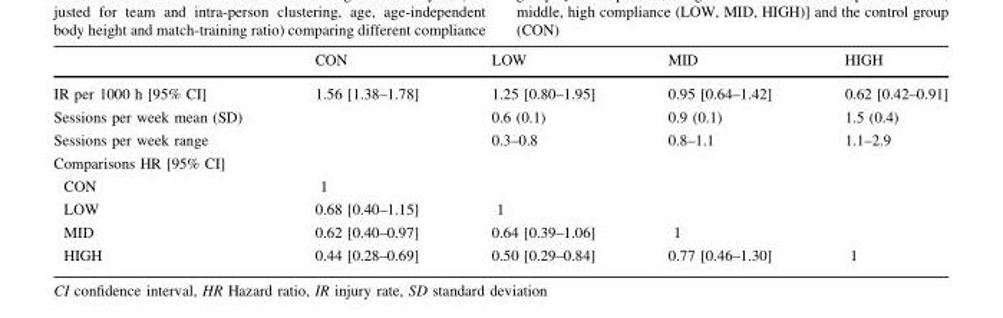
<table><thead><tr><td></td><td>CON</td><td>LOW</td><td>MID</td><td>HIGH</td></tr></thead><tbody><tr><td>IR per 1000 h [95% CI]</td><td>1.56 [1.38–1.78]</td><td>1.25 [0.80–1.95]</td><td>0.95 [0.64–1.42]</td><td>0.62 [0.42–0.91]</td></tr><tr><td>Sessions per week mean (SD)</td><td></td><td>0.6 (0.1)</td><td>0.9 (0.1)</td><td>1.5 (0.4)</td></tr><tr><td>Sessions per week range</td><td></td><td>0.3–0.8</td><td>0.8–1.1</td><td>1.1–2.9</td></tr><tr><td colspan="5">Comparisons HR [95% CI]</td></tr><tr><td>CON</td><td>1</td><td></td><td></td><td></td></tr><tr><td>LOW</td><td>0.68 [0.40–1.15]</td><td>1</td><td></td><td></td></tr><tr><td>MID</td><td>0.62 [0.40–0.97]</td><td>0.64 [0.39–1.06]</td><td>1</td><td></td></tr><tr><td>HIGH</td><td>0.44 [0.28–0.69]</td><td>0.50 [0.29–0.84]</td><td>0.77 [0.46–1.30]</td><td>1</td></tr></tbody></table>